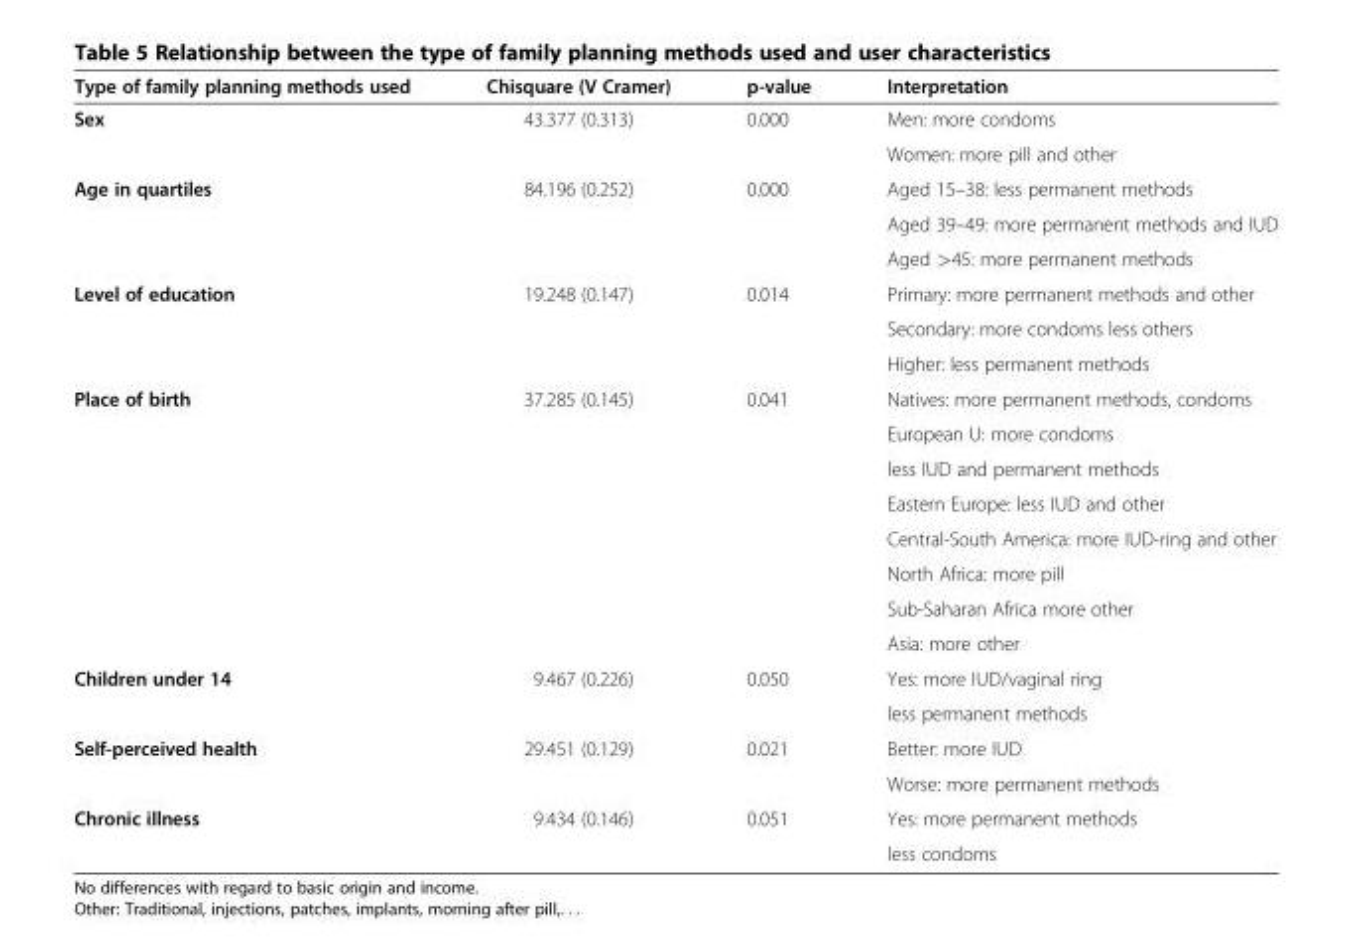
<table><thead><tr><td>Type of family planning methods used</td><td>Chisquare (V Cramer)</td><td>p-value</td><td>Interpretation</td></tr></thead><tbody><tr><td rowspan="2">Sex</td><td>43.377 (0.313)</td><td>0.000</td><td>Men: more condoms</td></tr><tr><td></td><td></td><td>Women: more pill and other</td></tr><tr><td rowspan="3">Age in quartiles</td><td>84.196 (0.252)</td><td>0.000</td><td>Aged 15–38: less permanent methods</td></tr><tr><td rowspan="2"></td><td rowspan="2"></td><td>Aged 39–49: more permanent methods and IUD</td></tr><tr><td>Aged &gt;45: more permanent methods</td></tr><tr><td rowspan="3">Level of education</td><td>19.248 (0.147)</td><td>0.014</td><td>Primary: more permanent methods and other</td></tr><tr><td rowspan="2"></td><td rowspan="2"></td><td>Secondary: more condoms less others</td></tr><tr><td>Higher: less permanent methods</td></tr><tr><td rowspan="8">Place of birth</td><td>37.285 (0.145)</td><td>0.041</td><td>Natives: more permanent methods, condoms</td></tr><tr><td rowspan="7"></td><td rowspan="7"></td><td>European U: more condoms</td></tr><tr><td>less IUD and permanent methods</td></tr><tr><td>Eastern Europe: less IUD and other</td></tr><tr><td>Central-South America: more IUD-ring and other</td></tr><tr><td>North Africa: more pill</td></tr><tr><td>Sub-Saharan Africa more other</td></tr><tr><td>Asia: more other</td></tr><tr><td rowspan="2">Children under 14</td><td>9.467 (0.226)</td><td>0.050</td><td>Yes: more IUD/vaginal ring</td></tr><tr><td></td><td></td><td>less permanent methods</td></tr><tr><td rowspan="2">Self-perceived health</td><td>29.451 (0.129)</td><td>0.021</td><td>Better: more IUD</td></tr><tr><td></td><td></td><td>Worse: more permanent methods</td></tr><tr><td rowspan="2">Chronic illness</td><td>9.434 (0.146)</td><td>0.051</td><td>Yes: more permanent methods</td></tr><tr><td></td><td></td><td>less condoms</td></tr></tbody></table>